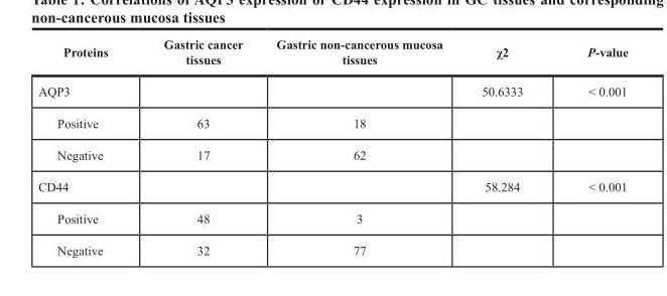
<table><thead><tr><td>Proteins</td><td>Gastric cancer tissues</td><td>Gastric non-cancerous mucosa tissues</td><td>χ2</td><td>P-value</td></tr></thead><tbody><tr><td>AQP3</td><td></td><td></td><td>50.6333</td><td>&lt; 0.001</td></tr><tr><td>Positive</td><td>63</td><td>18</td><td></td><td></td></tr><tr><td>Negative</td><td>17</td><td>62</td><td></td><td></td></tr><tr><td>CD44</td><td></td><td></td><td>58.284</td><td>&lt; 0.001</td></tr><tr><td>Positive</td><td>48</td><td>3</td><td></td><td></td></tr><tr><td>Negative</td><td>32</td><td>77</td><td></td><td></td></tr></tbody></table>